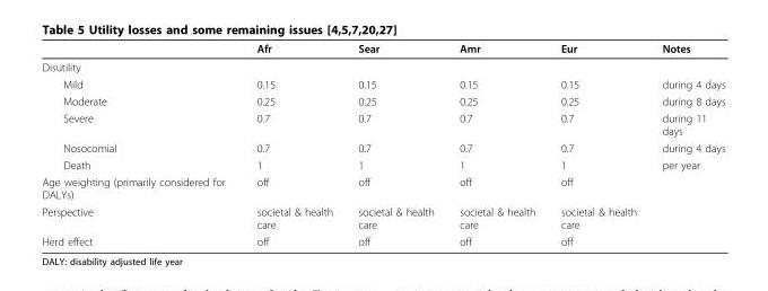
<table><thead><tr><td></td><td>Afr</td><td>Sear</td><td>Amr</td><td>Eur</td><td>Notes</td></tr></thead><tbody><tr><td colspan="6">Disutility</td></tr><tr><td>Mild</td><td>0.15</td><td>0.15</td><td>0.15</td><td>0.15</td><td>during 4 days</td></tr><tr><td>Moderate</td><td>0.25</td><td>0.25</td><td>0.25</td><td>0.25</td><td>during 8 days</td></tr><tr><td>Severe</td><td>0.7</td><td>0.7</td><td>0.7</td><td>0.7</td><td>during 11 days</td></tr><tr><td>Nosocomial</td><td>0.7</td><td>0.7</td><td>0.7</td><td>0.7</td><td>during 4 days</td></tr><tr><td>Death</td><td>1</td><td>1</td><td>1</td><td>1</td><td>per year</td></tr><tr><td>Age weighting (primarily considered for DALYs)</td><td>off</td><td>off</td><td>off</td><td>off</td><td></td></tr><tr><td>Perspective</td><td>societal &amp; health care</td><td>societal &amp; health care</td><td>societal &amp; health care</td><td>societal &amp; health care</td><td></td></tr><tr><td>Herd effect</td><td>off</td><td>off</td><td>off</td><td>off</td><td></td></tr></tbody></table>